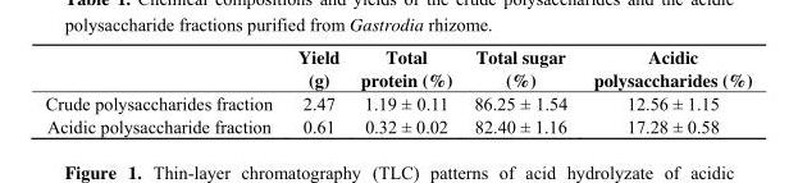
<table><thead><tr><td></td><td>Yield (g)</td><td>Total protein (%)</td><td>Total sugar (%)</td><td>Acidic polysaccharides (%)</td></tr></thead><tbody><tr><td>Crude polysaccharides fraction</td><td>2.47</td><td>1.19 ± 0.11</td><td>86.25 ± 1.54</td><td>12.56 ± 1.15</td></tr><tr><td>Acidic polysaccharide fraction</td><td>0.61</td><td>0.32 ± 0.02</td><td>82.40 ± 1.16</td><td>17.28 ± 0.58</td></tr></tbody></table>